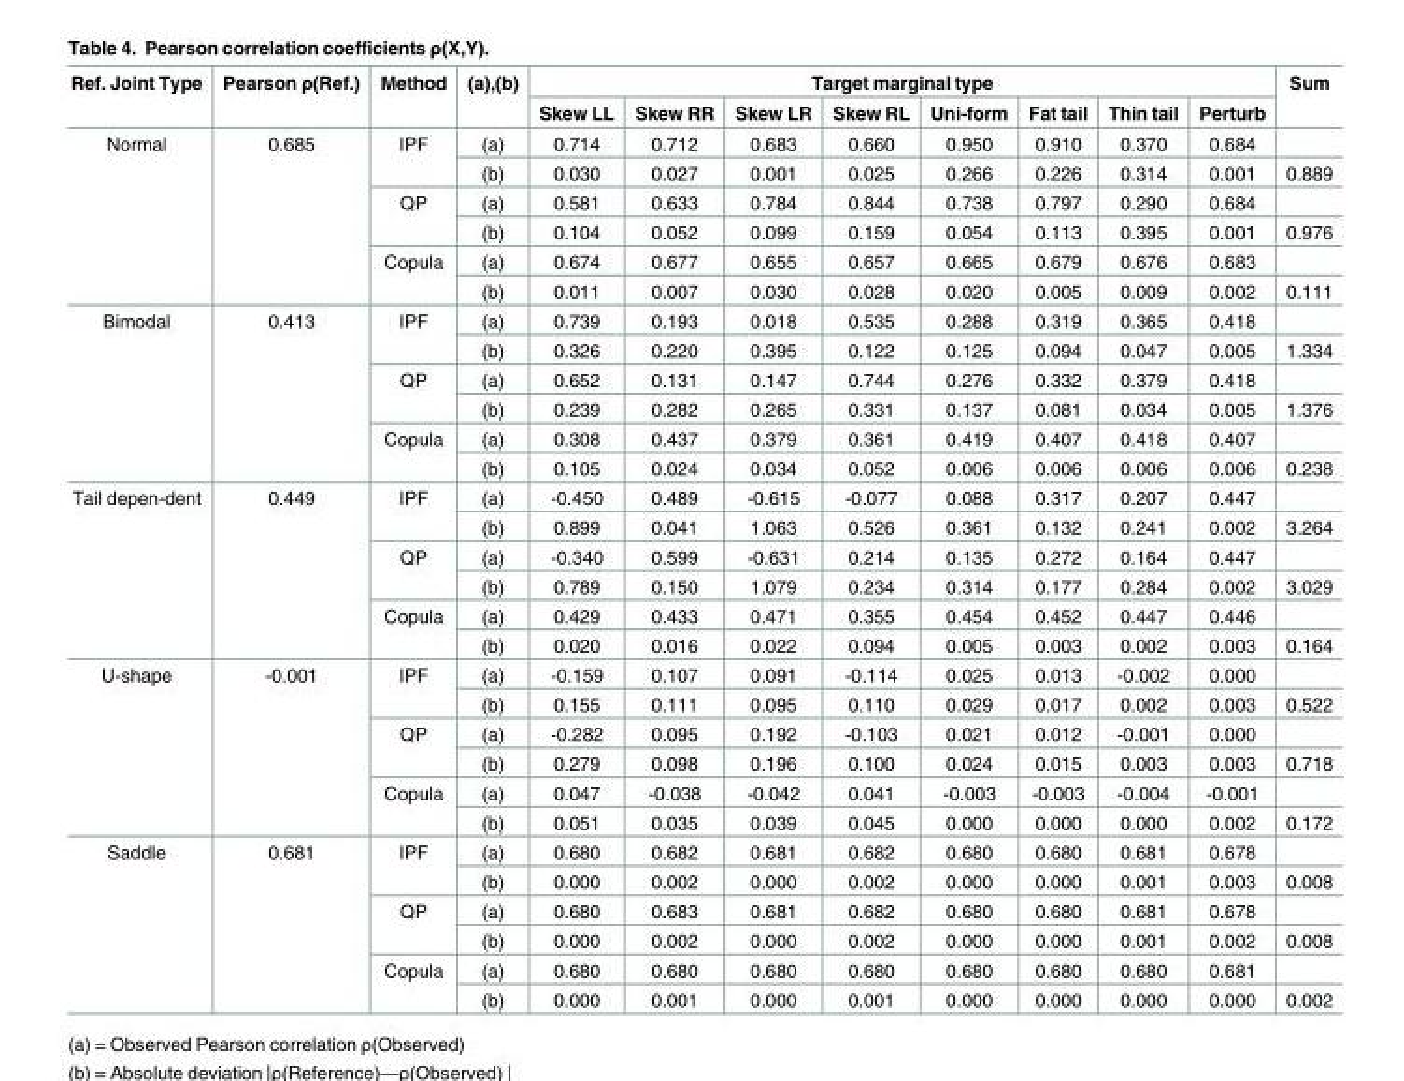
<table><thead><tr><td rowspan="2">Ref. Joint Type</td><td rowspan="2">Pearson ρ(Ref.)</td><td rowspan="2">Method</td><td rowspan="2">(a),(b)</td><td colspan="8">Target marginal type</td><td rowspan="2">Sum</td></tr><tr><td>Skew LL</td><td>Skew RR</td><td>Skew LR</td><td>Skew RL</td><td>Uni-form</td><td>Fat tail</td><td>Thin tail</td><td>Perturb</td></tr></thead><tbody><tr><td rowspan="6">Normal</td><td rowspan="6">0.685</td><td rowspan="2">IPF</td><td>(a)</td><td>0.714</td><td>0.712</td><td>0.683</td><td>0.660</td><td>0.950</td><td>0.910</td><td>0.370</td><td>0.684</td><td></td></tr><tr><td>(b)</td><td>0.030</td><td>0.027</td><td>0.001</td><td>0.025</td><td>0.266</td><td>0.226</td><td>0.314</td><td>0.001</td><td>0.889</td></tr><tr><td rowspan="2">QP</td><td>(a)</td><td>0.581</td><td>0.633</td><td>0.784</td><td>0.844</td><td>0.738</td><td>0.797</td><td>0.290</td><td>0.684</td><td></td></tr><tr><td>(b)</td><td>0.104</td><td>0.052</td><td>0.099</td><td>0.159</td><td>0.054</td><td>0.113</td><td>0.395</td><td>0.001</td><td>0.976</td></tr><tr><td rowspan="2">Copula</td><td>(a)</td><td>0.674</td><td>0.677</td><td>0.655</td><td>0.657</td><td>0.665</td><td>0.679</td><td>0.676</td><td>0.683</td><td></td></tr><tr><td>(b)</td><td>0.011</td><td>0.007</td><td>0.030</td><td>0.028</td><td>0.020</td><td>0.005</td><td>0.009</td><td>0.002</td><td>0.111</td></tr><tr><td rowspan="6">Bimodal</td><td rowspan="6">0.413</td><td rowspan="2">IPF</td><td>(a)</td><td>0.739</td><td>0.193</td><td>0.018</td><td>0.535</td><td>0.288</td><td>0.319</td><td>0.365</td><td>0.418</td><td></td></tr><tr><td>(b)</td><td>0.326</td><td>0.220</td><td>0.395</td><td>0.122</td><td>0.125</td><td>0.094</td><td>0.047</td><td>0.005</td><td>1.334</td></tr><tr><td rowspan="2">QP</td><td>(a)</td><td>0.652</td><td>0.131</td><td>0.147</td><td>0.744</td><td>0.276</td><td>0.332</td><td>0.379</td><td>0.418</td><td></td></tr><tr><td>(b)</td><td>0.239</td><td>0.282</td><td>0.265</td><td>0.331</td><td>0.137</td><td>0.081</td><td>0.034</td><td>0.005</td><td>1.376</td></tr><tr><td rowspan="2">Copula</td><td>(a)</td><td>0.308</td><td>0.437</td><td>0.379</td><td>0.361</td><td>0.419</td><td>0.407</td><td>0.418</td><td>0.407</td><td></td></tr><tr><td>(b)</td><td>0.105</td><td>0.024</td><td>0.034</td><td>0.052</td><td>0.006</td><td>0.006</td><td>0.006</td><td>0.006</td><td>0.238</td></tr><tr><td rowspan="6">Tail depen-dent</td><td rowspan="6">0.449</td><td rowspan="2">IPF</td><td>(a)</td><td>-0.450</td><td>0.489</td><td>-0.615</td><td>-0.077</td><td>0.088</td><td>0.317</td><td>0.207</td><td>0.447</td><td></td></tr><tr><td>(b)</td><td>0.899</td><td>0.041</td><td>1.063</td><td>0.526</td><td>0.361</td><td>0.132</td><td>0.241</td><td>0.002</td><td>3.264</td></tr><tr><td rowspan="2">QP</td><td>(a)</td><td>-0.340</td><td>0.599</td><td>-0.631</td><td>0.214</td><td>0.135</td><td>0.272</td><td>0.164</td><td>0.447</td><td></td></tr><tr><td>(b)</td><td>0.789</td><td>0.150</td><td>1.079</td><td>0.234</td><td>0.314</td><td>0.177</td><td>0.284</td><td>0.002</td><td>3.029</td></tr><tr><td rowspan="2">Copula</td><td>(a)</td><td>0.429</td><td>0.433</td><td>0.471</td><td>0.355</td><td>0.454</td><td>0.452</td><td>0.447</td><td>0.446</td><td></td></tr><tr><td>(b)</td><td>0.020</td><td>0.016</td><td>0.022</td><td>0.094</td><td>0.005</td><td>0.003</td><td>0.002</td><td>0.003</td><td>0.164</td></tr><tr><td rowspan="6">U-shape</td><td rowspan="6">-0.001</td><td rowspan="2">IPF</td><td>(a)</td><td>-0.159</td><td>0.107</td><td>0.091</td><td>-0.114</td><td>0.025</td><td>0.013</td><td>-0.002</td><td>0.000</td><td></td></tr><tr><td>(b)</td><td>0.155</td><td>0.111</td><td>0.095</td><td>0.110</td><td>0.029</td><td>0.017</td><td>0.002</td><td>0.003</td><td>0.522</td></tr><tr><td rowspan="2">QP</td><td>(a)</td><td>-0.282</td><td>0.095</td><td>0.192</td><td>-0.103</td><td>0.021</td><td>0.012</td><td>-0.001</td><td>0.000</td><td></td></tr><tr><td>(b)</td><td>0.279</td><td>0.098</td><td>0.196</td><td>0.100</td><td>0.024</td><td>0.015</td><td>0.003</td><td>0.003</td><td>0.718</td></tr><tr><td rowspan="2">Copula</td><td>(a)</td><td>0.047</td><td>-0.038</td><td>-0.042</td><td>0.041</td><td>-0.003</td><td>-0.003</td><td>-0.004</td><td>-0.001</td><td></td></tr><tr><td>(b)</td><td>0.051</td><td>0.035</td><td>0.039</td><td>0.045</td><td>0.000</td><td>0.000</td><td>0.000</td><td>0.002</td><td>0.172</td></tr><tr><td rowspan="6">Saddle</td><td rowspan="6">0.681</td><td rowspan="2">IPF</td><td>(a)</td><td>0.680</td><td>0.682</td><td>0.681</td><td>0.682</td><td>0.680</td><td>0.680</td><td>0.681</td><td>0.678</td><td></td></tr><tr><td>(b)</td><td>0.000</td><td>0.002</td><td>0.000</td><td>0.002</td><td>0.000</td><td>0.000</td><td>0.001</td><td>0.003</td><td>0.008</td></tr><tr><td rowspan="2">QP</td><td>(a)</td><td>0.680</td><td>0.683</td><td>0.681</td><td>0.682</td><td>0.680</td><td>0.680</td><td>0.681</td><td>0.678</td><td></td></tr><tr><td>(b)</td><td>0.000</td><td>0.002</td><td>0.000</td><td>0.002</td><td>0.000</td><td>0.000</td><td>0.001</td><td>0.002</td><td>0.008</td></tr><tr><td rowspan="2">Copula</td><td>(a)</td><td>0.680</td><td>0.680</td><td>0.680</td><td>0.680</td><td>0.680</td><td>0.680</td><td>0.680</td><td>0.681</td><td></td></tr><tr><td>(b)</td><td>0.000</td><td>0.001</td><td>0.000</td><td>0.001</td><td>0.000</td><td>0.000</td><td>0.000</td><td>0.000</td><td>0.002</td></tr></tbody></table>